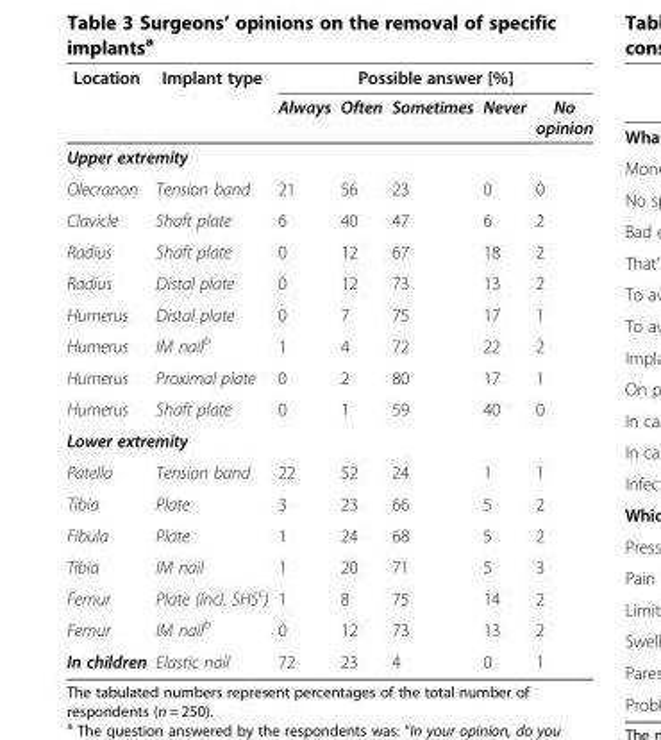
<table><thead><tr><td rowspan="2">Location</td><td rowspan="2">Implant type</td><td colspan="5">Possible answer [%]</td></tr><tr><td>Always</td><td>Often</td><td>Sometimes</td><td>Never</td><td>No opinion</td></tr></thead><tbody><tr><td colspan="7">Upper extremity</td></tr><tr><td>Olecranon</td><td>Tension band</td><td>21</td><td>56</td><td>23</td><td>0</td><td>0</td></tr><tr><td>Clavicle</td><td>Shaft plate</td><td>6</td><td>40</td><td>47</td><td>6</td><td>2</td></tr><tr><td>Radius</td><td>Shaft plate</td><td>0</td><td>12</td><td>67</td><td>18</td><td>2</td></tr><tr><td>Radius</td><td>Distal plate</td><td>0</td><td>12</td><td>73</td><td>13</td><td>2</td></tr><tr><td>Humerus</td><td>Distal plate</td><td>0</td><td>7</td><td>75</td><td>17</td><td>1</td></tr><tr><td>Humerus</td><td>IM nail<sup>b</sup></td><td>1</td><td>4</td><td>72</td><td>22</td><td>2</td></tr><tr><td>Humerus</td><td>Proximal plate</td><td>0</td><td>2</td><td>80</td><td>17</td><td>1</td></tr><tr><td>Humerus</td><td>Shaft plate</td><td>0</td><td>1</td><td>59</td><td>40</td><td>0</td></tr><tr><td colspan="7">Lower extremity</td></tr><tr><td>Patella</td><td>Tension band</td><td>22</td><td>52</td><td>24</td><td>1</td><td>1</td></tr><tr><td>Tibia</td><td>Plate</td><td>3</td><td>23</td><td>66</td><td>5</td><td>2</td></tr><tr><td>Fibula</td><td>Plate</td><td>1</td><td>24</td><td>68</td><td>5</td><td>2</td></tr><tr><td>Tibia</td><td>IM nail</td><td>1</td><td>20</td><td>71</td><td>5</td><td>3</td></tr><tr><td>Femur</td><td>Plate (incl. SHS<sup>c</sup>)</td><td>1</td><td>8</td><td>75</td><td>14</td><td>2</td></tr><tr><td>Femur</td><td>IM nail<sup>b</sup></td><td>0</td><td>12</td><td>73</td><td>13</td><td>2</td></tr><tr><td>In children</td><td>Elastic nail</td><td>72</td><td>23</td><td>4</td><td>0</td><td>1</td></tr></tbody></table>